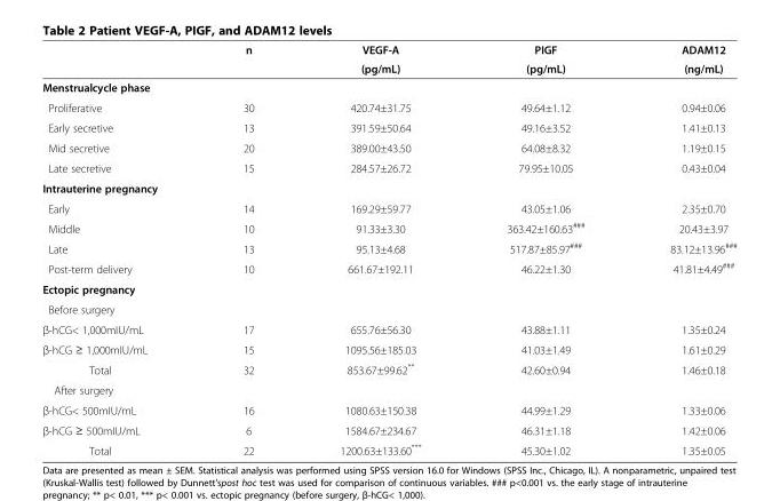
<table><thead><tr><td rowspan="2"></td><td rowspan="2">n</td><td rowspan="2">VEGF-A (pg/mL)</td><td rowspan="2">PIGF (pg/mL)</td><td rowspan="2">ADAM12 (ng/mL)</td></tr><tr></tr></thead><tbody><tr><td colspan="5">Menstrualcycle phase</td></tr><tr><td>Proliferative</td><td>30</td><td>420.74±31.75</td><td>49.64±1.12</td><td>0.94±0.06</td></tr><tr><td>Early secretive</td><td>13</td><td>391.59±50.64</td><td>49.16±3.52</td><td>1.41±0.13</td></tr><tr><td>Mid secretive</td><td>20</td><td>389.00±43.50</td><td>64.08±8.32</td><td>1.19±0.15</td></tr><tr><td>Late secretive</td><td>15</td><td>284.57±26.72</td><td>79.95±10.05</td><td>0.43±0.04</td></tr><tr><td colspan="5">Intrauterine pregnancy</td></tr><tr><td>Early</td><td>14</td><td>169.29±59.77</td><td>43.05±1.06</td><td>2.35±0.70</td></tr><tr><td>Middle</td><td>10</td><td>91.33±3.30</td><td>363.42±160.63<sup>###</sup></td><td>20.43±3.97</td></tr><tr><td>Late</td><td>13</td><td>95.13±4.68</td><td>517.87±85.97<sup>###</sup></td><td>83.12±13.96<sup>###</sup></td></tr><tr><td>Post-term delivery</td><td>10</td><td>661.67±192.11</td><td>46.22±1.30</td><td>41.81±4.49<sup>###</sup></td></tr><tr><td colspan="5">Ectopic pregnancy</td></tr><tr><td colspan="5">Before surgery</td></tr><tr><td>β-hCG&lt; 1,000mIU/mL</td><td>17</td><td>655.76±56.30</td><td>43.88±1.11</td><td>1.35±0.24</td></tr><tr><td>β-hCG ≥ 1,000mIU/mL</td><td>15</td><td>1095.56±185.03</td><td>41.03±1.49</td><td>1.61±0.29</td></tr><tr><td>Total</td><td>32</td><td>853.67±99.62**</td><td>42.60±0.94</td><td>1.46±0.18</td></tr><tr><td colspan="5">After surgery</td></tr><tr><td>β-hCG&lt; 500mIU/mL</td><td>16</td><td>1080.63±150.38</td><td>44.99±1.29</td><td>1.33±0.06</td></tr><tr><td>β-hCG ≥ 500mIU/mL</td><td>6</td><td>1584.67±234.67</td><td>46.31±1.18</td><td>1.42±0.06</td></tr><tr><td>Total</td><td>22</td><td>1200.63±133.60***</td><td>45.30±1.02</td><td>1.35±0.05</td></tr></tbody></table>